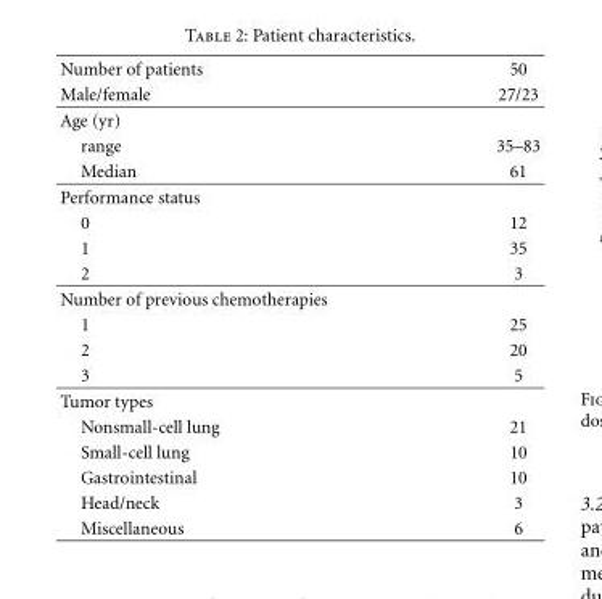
<table><tbody><tr><td>Number of patients</td><td>50</td></tr><tr><td>Male/female</td><td>27/23</td></tr><tr><td colspan="2">Age (yr)</td></tr><tr><td>range</td><td>35–83</td></tr><tr><td>Median</td><td>61</td></tr><tr><td colspan="2">Performance status</td></tr><tr><td>0</td><td>12</td></tr><tr><td>1</td><td>35</td></tr><tr><td>2</td><td>3</td></tr><tr><td colspan="2">Number of previous chemotherapies</td></tr><tr><td>1</td><td>25</td></tr><tr><td>2</td><td>20</td></tr><tr><td>3</td><td>5</td></tr><tr><td colspan="2">Tumor types</td></tr><tr><td>Nonsmall-cell lung</td><td>21</td></tr><tr><td>Small-cell lung</td><td>10</td></tr><tr><td>Gastrointestinal</td><td>10</td></tr><tr><td>Head/neck</td><td>3</td></tr><tr><td>Miscellaneous</td><td>6</td></tr></tbody></table>